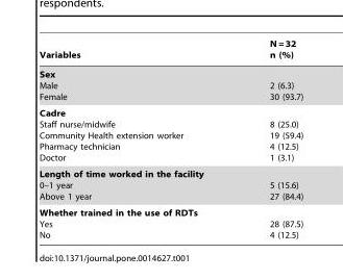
<table><thead><tr><td>Variables</td><td>N = 32 n (%)</td></tr></thead><tbody><tr><td>Sex Male Female</td><td>2 (6.3) 30 (93.7)</td></tr><tr><td>Cadre Staff nurse/midwife Community Health extension worker Pharmacy technician Doctor</td><td>8 (25.0) 19 (59.4) 4 (12.5) 1 (3.1)</td></tr><tr><td>Length of time worked in the facility 0–1 year Above 1 year</td><td>5 (15.6) 27 (84.4)</td></tr><tr><td>Whether trained in the use of RDTs Yes No</td><td>28 (87.5) 4 (12.5)</td></tr></tbody></table>